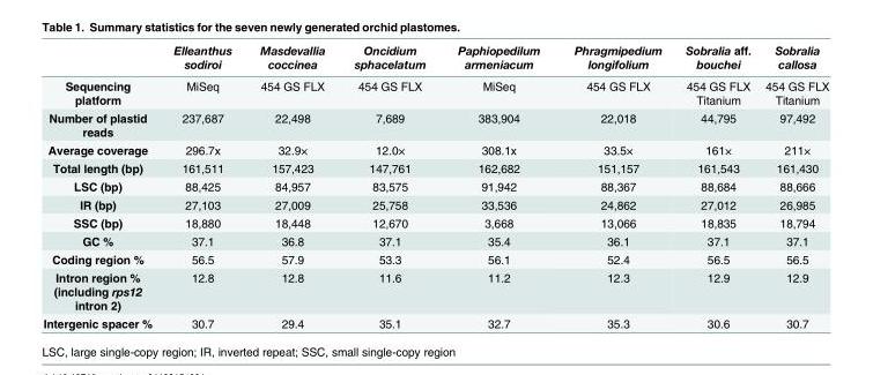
<table><thead><tr><td></td><td>Elleanthus sodiroi</td><td>Masdevallia coccinea</td><td>Oncidium sphacelatum</td><td>Paphiopedilum armeniacum</td><td>Phragmipedium longifolium</td><td>Sobralia aff. bouchei</td><td>Sobralia callosa</td></tr></thead><tbody><tr><td>Sequencing platform</td><td>MiSeq</td><td>454 GS FLX</td><td>454 GS FLX</td><td>MiSeq</td><td>454 GS FLX</td><td>454 GS FLX Titanium</td><td>454 GS FLX Titanium</td></tr><tr><td>Number of plastid reads</td><td>237,687</td><td>22,498</td><td>7,689</td><td>383,904</td><td>22,018</td><td>44,795</td><td>97,492</td></tr><tr><td>Average coverage</td><td>296.7x</td><td>32.9×</td><td>12.0×</td><td>308.1x</td><td>33.5×</td><td>161×</td><td>211×</td></tr><tr><td>Total length (bp)</td><td>161,511</td><td>157,423</td><td>147,761</td><td>162,682</td><td>151,157</td><td>161,543</td><td>161,430</td></tr><tr><td>LSC (bp)</td><td>88,425</td><td>84,957</td><td>83,575</td><td>91,942</td><td>88,367</td><td>88,684</td><td>88,666</td></tr><tr><td>IR (bp)</td><td>27,103</td><td>27,009</td><td>25,758</td><td>33,536</td><td>24,862</td><td>27,012</td><td>26,985</td></tr><tr><td>SSC (bp)</td><td>18,880</td><td>18,448</td><td>12,670</td><td>3,668</td><td>13,066</td><td>18,835</td><td>18,794</td></tr><tr><td>GC %</td><td>37.1</td><td>36.8</td><td>37.1</td><td>35.4</td><td>36.1</td><td>37.1</td><td>37.1</td></tr><tr><td>Coding region %</td><td>56.5</td><td>57.9</td><td>53.3</td><td>56.1</td><td>52.4</td><td>56.5</td><td>56.5</td></tr><tr><td>Intron region % (including rps12 intron 2)</td><td>12.8</td><td>12.8</td><td>11.6</td><td>11.2</td><td>12.3</td><td>12.9</td><td>12.9</td></tr><tr><td>Intergenic spacer %</td><td>30.7</td><td>29.4</td><td>35.1</td><td>32.7</td><td>35.3</td><td>30.6</td><td>30.7</td></tr></tbody></table>